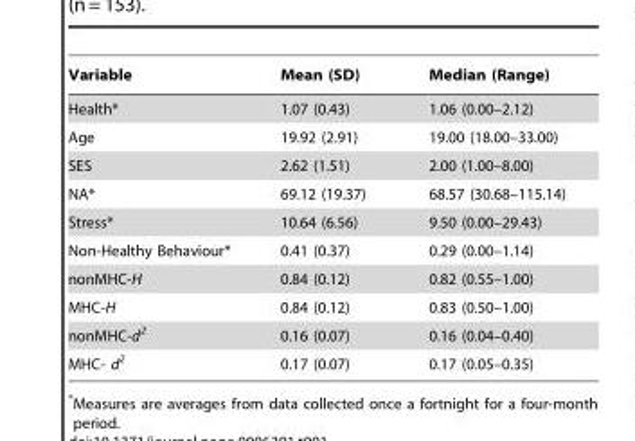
<table><thead><tr><td>Variable</td><td>Mean (SD)</td><td>Median (Range)</td></tr></thead><tbody><tr><td>Health*</td><td>1.07 (0.43)</td><td>1.06 (0.00–2.12)</td></tr><tr><td>Age</td><td>19.92 (2.91)</td><td>19.00 (18.00–33.00)</td></tr><tr><td>SES</td><td>2.62 (1.51)</td><td>2.00 (1.00–8.00)</td></tr><tr><td>NA*</td><td>69.12 (19.37)</td><td>68.57 (30.68–115.14)</td></tr><tr><td>Stress*</td><td>10.64 (6.56)</td><td>9.50 (0.00–29.43)</td></tr><tr><td>Non-Healthy Behaviour*</td><td>0.41 (0.37)</td><td>0.29 (0.00–1.14)</td></tr><tr><td>nonMHC-H</td><td>0.84 (0.12)</td><td>0.82 (0.55–1.00)</td></tr><tr><td>MHC-H</td><td>0.84 (0.12)</td><td>0.83 (0.50–1.00)</td></tr><tr><td>nonMHC-d<sup>2</sup></td><td>0.16 (0.07)</td><td>0.16 (0.04–0.40)</td></tr><tr><td>MHC- d<sup>2</sup></td><td>0.17 (0.07)</td><td>0.17 (0.05–0.35)</td></tr></tbody></table>